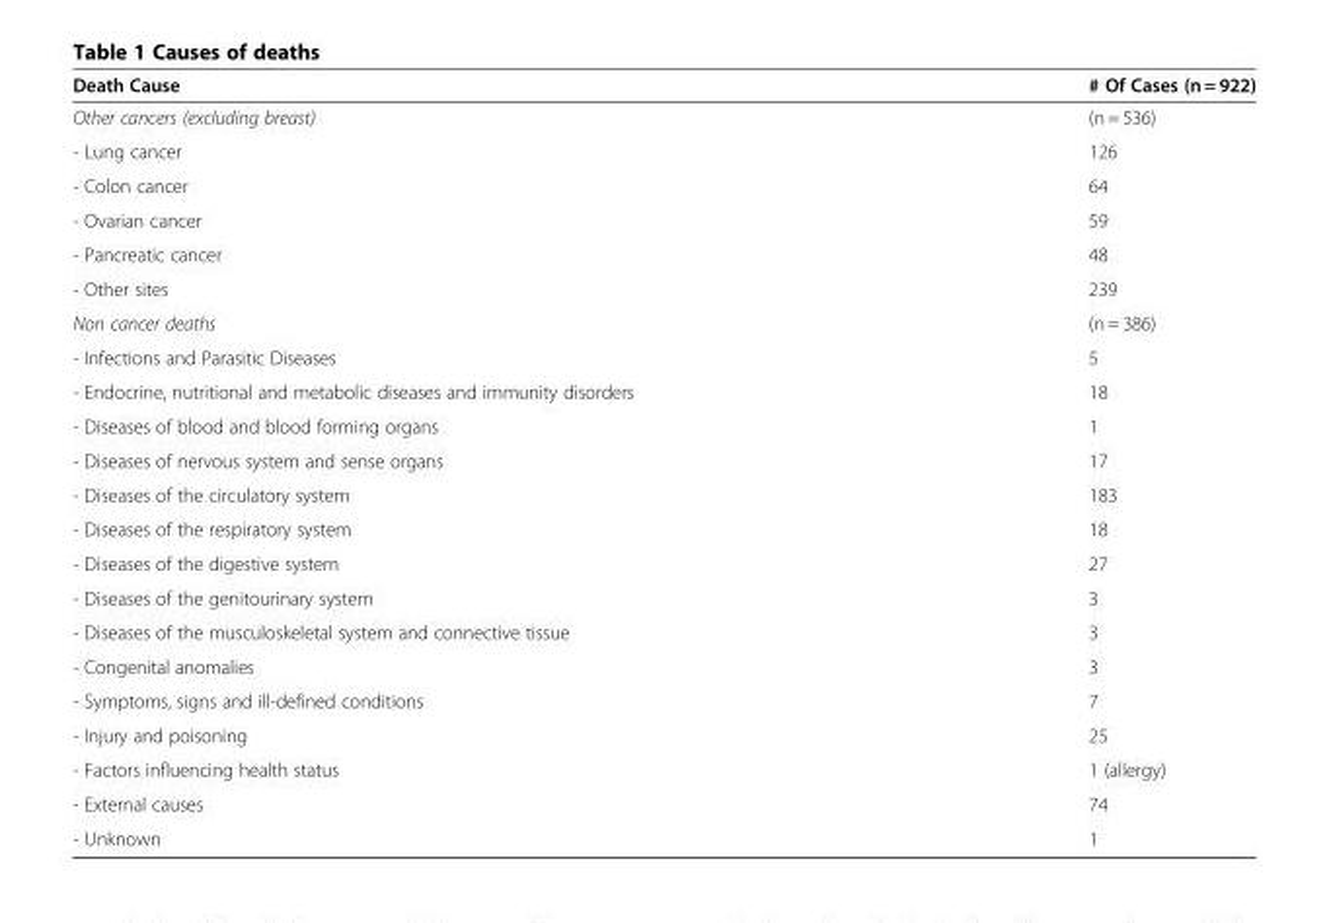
<table><thead><tr><td>Death Cause</td><td># Of Cases (n = 922)</td></tr></thead><tbody><tr><td>Other cancers (excluding breast)</td><td>(n = 536)</td></tr><tr><td>- Lung cancer</td><td>126</td></tr><tr><td>- Colon cancer</td><td>64</td></tr><tr><td>- Ovarian cancer</td><td>59</td></tr><tr><td>- Pancreatic cancer</td><td>48</td></tr><tr><td>- Other sites</td><td>239</td></tr><tr><td>Non cancer deaths</td><td>(n = 386)</td></tr><tr><td>- Infections and Parasitic Diseases</td><td>5</td></tr><tr><td>- Endocrine, nutritional and metabolic diseases and immunity disorders</td><td>18</td></tr><tr><td>- Diseases of blood and blood forming organs</td><td>1</td></tr><tr><td>- Diseases of nervous system and sense organs</td><td>17</td></tr><tr><td>- Diseases of the circulatory system</td><td>183</td></tr><tr><td>- Diseases of the respiratory system</td><td>18</td></tr><tr><td>- Diseases of the digestive system</td><td>27</td></tr><tr><td>- Diseases of the genitourinary system</td><td>3</td></tr><tr><td>- Diseases of the musculoskeletal system and connective tissue</td><td>3</td></tr><tr><td>- Congenital anomalies</td><td>3</td></tr><tr><td>- Symptoms, signs and ill-defined conditions</td><td>7</td></tr><tr><td>- Injury and poisoning</td><td>25</td></tr><tr><td>- Factors influencing health status</td><td>1 (allergy)</td></tr><tr><td>- External causes</td><td>74</td></tr><tr><td>- Unknown</td><td>1</td></tr></tbody></table>